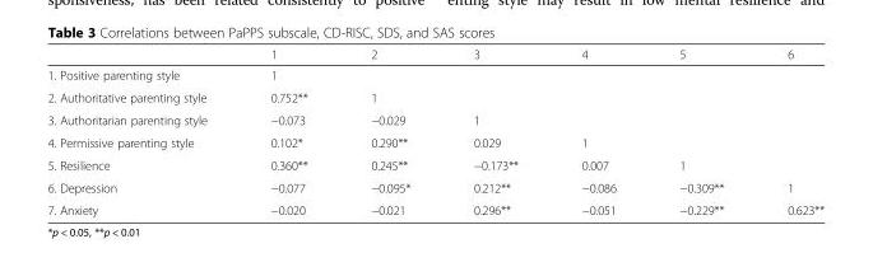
<table><thead><tr><td></td><td>1</td><td>2</td><td>3</td><td>4</td><td>5</td><td>6</td></tr></thead><tbody><tr><td>1. Positive parenting style</td><td>1</td><td></td><td></td><td></td><td></td><td></td></tr><tr><td>2. Authoritative parenting style</td><td>0.752**</td><td>1</td><td></td><td></td><td></td><td></td></tr><tr><td>3. Authoritarian parenting style</td><td>−0.073</td><td>−0.029</td><td>1</td><td></td><td></td><td></td></tr><tr><td>4. Permissive parenting style</td><td>0.102*</td><td>0.290**</td><td>0.029</td><td>1</td><td></td><td></td></tr><tr><td>5. Resilience</td><td>0.360**</td><td>0.245**</td><td>−0.173**</td><td>0.007</td><td>1</td><td></td></tr><tr><td>6. Depression</td><td>−0.077</td><td>−0.095*</td><td>0.212**</td><td>−0.086</td><td>−0.309**</td><td>1</td></tr><tr><td>7. Anxiety</td><td>−0.020</td><td>−0.021</td><td>0.296**</td><td>−0.051</td><td>−0.229**</td><td>0.623**</td></tr></tbody></table>